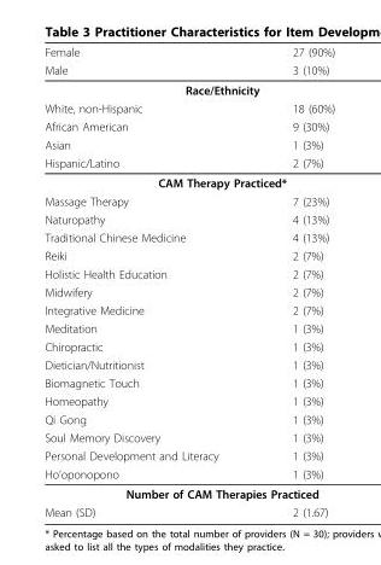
<table><thead><tr><td rowspan="2">Female Male</td><td rowspan="2">27 (90%) 3 (10%)</td></tr><tr></tr></thead><tbody><tr><td colspan="2">Race/Ethnicity</td></tr><tr><td>White, non-Hispanic</td><td>18 (60%)</td></tr><tr><td>African American</td><td>9 (30%)</td></tr><tr><td>Asian</td><td>1 (3%)</td></tr><tr><td>Hispanic/Latino</td><td>2 (7%)</td></tr><tr><td colspan="2">CAM Therapy Practiced*</td></tr><tr><td>Massage Therapy</td><td>7 (23%)</td></tr><tr><td>Naturopathy</td><td>4 (13%)</td></tr><tr><td>Traditional Chinese Medicine</td><td>4 (13%)</td></tr><tr><td>Reiki</td><td>2 (7%)</td></tr><tr><td>Holistic Health Education</td><td>2 (7%)</td></tr><tr><td>Midwifery</td><td>2 (7%)</td></tr><tr><td>Integrative Medicine</td><td>2 (7%)</td></tr><tr><td>Meditation</td><td>1 (3%)</td></tr><tr><td>Chiropractic</td><td>1 (3%)</td></tr><tr><td>Dietician/Nutritionist</td><td>1 (3%)</td></tr><tr><td>Biomagnetic Touch</td><td>1 (3%)</td></tr><tr><td>Homeopathy</td><td>1 (3%)</td></tr><tr><td>Qi Gong</td><td>1 (3%)</td></tr><tr><td>Soul Memory Discovery</td><td>1 (3%)</td></tr><tr><td>Personal Development and Literacy</td><td>1 (3%)</td></tr><tr><td>Ho’oponopono</td><td>1 (3%)</td></tr><tr><td colspan="2">Number of CAM Therapies Practiced</td></tr><tr><td>Mean (SD)</td><td>2 (1.67)</td></tr></tbody></table>